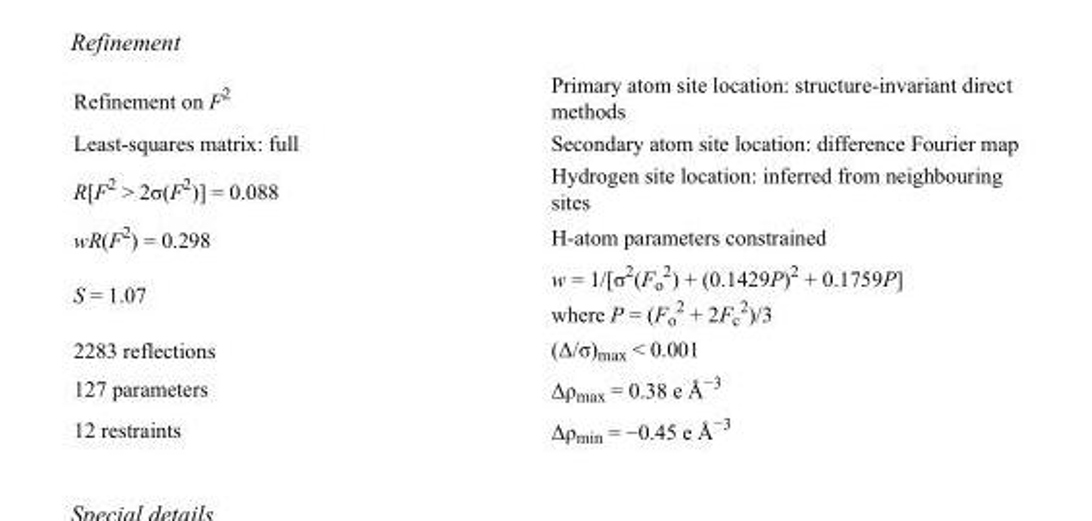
<table><tbody><tr><td>Refinement on F<sup>2</sup></td><td>Primary atom site location: structure-invariant direct methods</td></tr><tr><td>Least-squares matrix: full</td><td>Secondary atom site location: difference Fourier map</td></tr><tr><td>R[F<sup>2</sup> &gt; 2σ(F<sup>2</sup>)] = 0.088</td><td>Hydrogen site location: inferred from neighbouring sites</td></tr><tr><td>wR(F<sup>2</sup>) = 0.298</td><td>H-atom parameters constrained</td></tr><tr><td>S = 1.07</td><td>w = 1/[σ<sup>2</sup>(F<sub>o</sub> <sup>2</sup>) + (0.1429P)<sup>2</sup> + 0.1759P] where P = (F<sub>o</sub> <sup>2</sup> + 2F<sub>c</sub> <sup>2</sup>)/3</td></tr><tr><td>2283 reflections</td><td>(Δ/σ)<sub>max</sub> &lt; 0.001</td></tr><tr><td>127 parameters</td><td>Δρ<sub>max</sub> = 0.38 e Å<sup>−3</sup></td></tr><tr><td>12 restraints</td><td>Δρ<sub>min</sub> = −0.45 e Å<sup>−3</sup></td></tr></tbody></table>